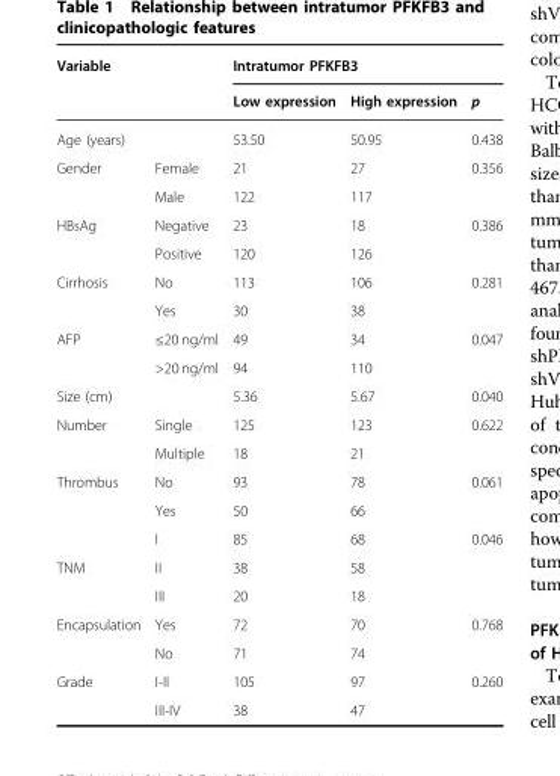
<table><thead><tr><td rowspan="2">Variable</td><td rowspan="2"></td><td colspan="3">Intratumor PFKFB3</td></tr><tr><td>Low expression</td><td>High expression</td><td>p</td></tr></thead><tbody><tr><td>Age (years)</td><td></td><td>53.50</td><td>50.95</td><td>0.438</td></tr><tr><td rowspan="2">Gender</td><td>Female</td><td>21</td><td>27</td><td>0.356</td></tr><tr><td>Male</td><td>122</td><td>117</td><td></td></tr><tr><td rowspan="2">HBsAg</td><td>Negative</td><td>23</td><td>18</td><td>0.386</td></tr><tr><td>Positive</td><td>120</td><td>126</td><td></td></tr><tr><td rowspan="2">Cirrhosis</td><td>No</td><td>113</td><td>106</td><td>0.281</td></tr><tr><td>Yes</td><td>30</td><td>38</td><td></td></tr><tr><td rowspan="2">AFP</td><td>≤20 ng/ml</td><td>49</td><td>34</td><td>0.047</td></tr><tr><td>&gt;20 ng/ml</td><td>94</td><td>110</td><td></td></tr><tr><td>Size (cm)</td><td></td><td>5.36</td><td>5.67</td><td>0.040</td></tr><tr><td rowspan="2">Number</td><td>Single</td><td>125</td><td>123</td><td>0.622</td></tr><tr><td>Multiple</td><td>18</td><td>21</td><td></td></tr><tr><td rowspan="3">Thrombus</td><td>No</td><td>93</td><td>78</td><td>0.061</td></tr><tr><td>Yes</td><td>50</td><td>66</td><td></td></tr><tr><td>I</td><td>85</td><td>68</td><td>0.046</td></tr><tr><td rowspan="2">TNM</td><td>II</td><td>38</td><td>58</td><td></td></tr><tr><td>III</td><td>20</td><td>18</td><td></td></tr><tr><td rowspan="2">Encapsulation</td><td>Yes</td><td>72</td><td>70</td><td>0.768</td></tr><tr><td>No</td><td>71</td><td>74</td><td></td></tr><tr><td rowspan="2">Grade</td><td>I-II</td><td>105</td><td>97</td><td>0.260</td></tr><tr><td>III-IV</td><td>38</td><td>47</td><td></td></tr></tbody></table>